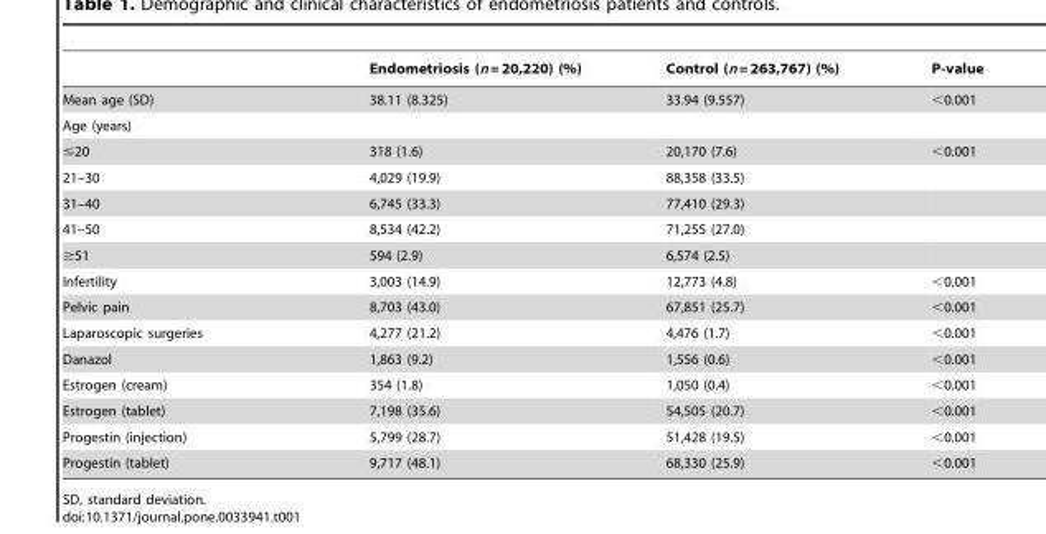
<table><thead><tr><td></td><td>Endometriosis (n = 20,220) (%)</td><td>Control (n = 263,767) (%)</td><td>P-value</td></tr></thead><tbody><tr><td>Mean age (SD)</td><td>38.11 (8.325)</td><td>33.94 (9.557)</td><td>&lt;0.001</td></tr><tr><td colspan="4">Age (years)</td></tr><tr><td>≤20</td><td>318 (1.6)</td><td>20,170 (7.6)</td><td>&lt;0.001</td></tr><tr><td>21–30</td><td>4,029 (19.9)</td><td>88,358 (33.5)</td><td></td></tr><tr><td>31–40</td><td>6,745 (33.3)</td><td>77,410 (29.3)</td><td></td></tr><tr><td>41–50</td><td>8,534 (42.2)</td><td>71,255 (27.0)</td><td></td></tr><tr><td>≥51</td><td>594 (2.9)</td><td>6,574 (2.5)</td><td></td></tr><tr><td>Infertility</td><td>3,003 (14.9)</td><td>12,773 (4.8)</td><td>&lt;0.001</td></tr><tr><td>Pelvic pain</td><td>8,703 (43.0)</td><td>67,851 (25.7)</td><td>&lt;0.001</td></tr><tr><td>Laparoscopic surgeries</td><td>4,277 (21.2)</td><td>4,476 (1.7)</td><td>&lt;0.001</td></tr><tr><td>Danazol</td><td>1,863 (9.2)</td><td>1,556 (0.6)</td><td>&lt;0.001</td></tr><tr><td>Estrogen (cream)</td><td>354 (1.8)</td><td>1,050 (0.4)</td><td>&lt;0.001</td></tr><tr><td>Estrogen (tablet)</td><td>7,198 (35.6)</td><td>54,505 (20.7)</td><td>&lt;0.001</td></tr><tr><td>Progestin (injection)</td><td>5,799 (28.7)</td><td>51,428 (19.5)</td><td>&lt;0.001</td></tr><tr><td>Progestin (tablet)</td><td>9,717 (48.1)</td><td>68,330 (25.9)</td><td>&lt;0.001</td></tr></tbody></table>